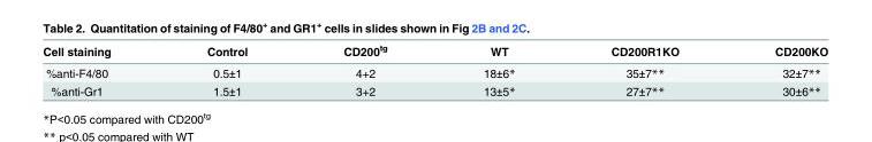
<table><thead><tr><td>Cell staining</td><td>Control</td><td>CD200<sup>tg</sup></td><td>WT</td><td>CD200R1KO</td><td>CD200KO</td></tr></thead><tbody><tr><td>%anti-F4/80</td><td>0.5±1</td><td>4+2</td><td>18±6*</td><td>35±7**</td><td>32±7**</td></tr><tr><td>%anti-Gr1</td><td>1.5±1</td><td>3+2</td><td>13±5*</td><td>27±7**</td><td>30±6**</td></tr></tbody></table>